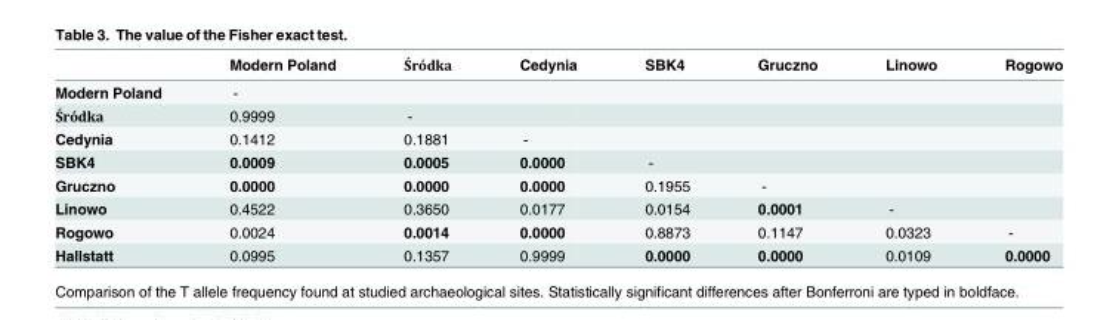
<table><thead><tr><td></td><td>Modern Poland</td><td>Śródka</td><td>Cedynia</td><td>SBK4</td><td>Gruczno</td><td>Linowo</td><td>Rogowo</td></tr></thead><tbody><tr><td>Modern Poland</td><td>-</td><td></td><td></td><td></td><td></td><td></td><td></td></tr><tr><td>Śródka</td><td>0.9999</td><td>-</td><td></td><td></td><td></td><td></td><td></td></tr><tr><td>Cedynia</td><td>0.1412</td><td>0.1881</td><td>-</td><td></td><td></td><td></td><td></td></tr><tr><td>SBK4</td><td>0.0009</td><td>0.0005</td><td>0.0000</td><td>-</td><td></td><td></td><td></td></tr><tr><td>Gruczno</td><td>0.0000</td><td>0.0000</td><td>0.0000</td><td>0.1955</td><td>-</td><td></td><td></td></tr><tr><td>Linowo</td><td>0.4522</td><td>0.3650</td><td>0.0177</td><td>0.0154</td><td>0.0001</td><td>-</td><td></td></tr><tr><td>Rogowo</td><td>0.0024</td><td>0.0014</td><td>0.0000</td><td>0.8873</td><td>0.1147</td><td>0.0323</td><td>-</td></tr><tr><td>Hallstatt</td><td>0.0995</td><td>0.1357</td><td>0.9999</td><td>0.0000</td><td>0.0000</td><td>0.0109</td><td>0.0000</td></tr></tbody></table>